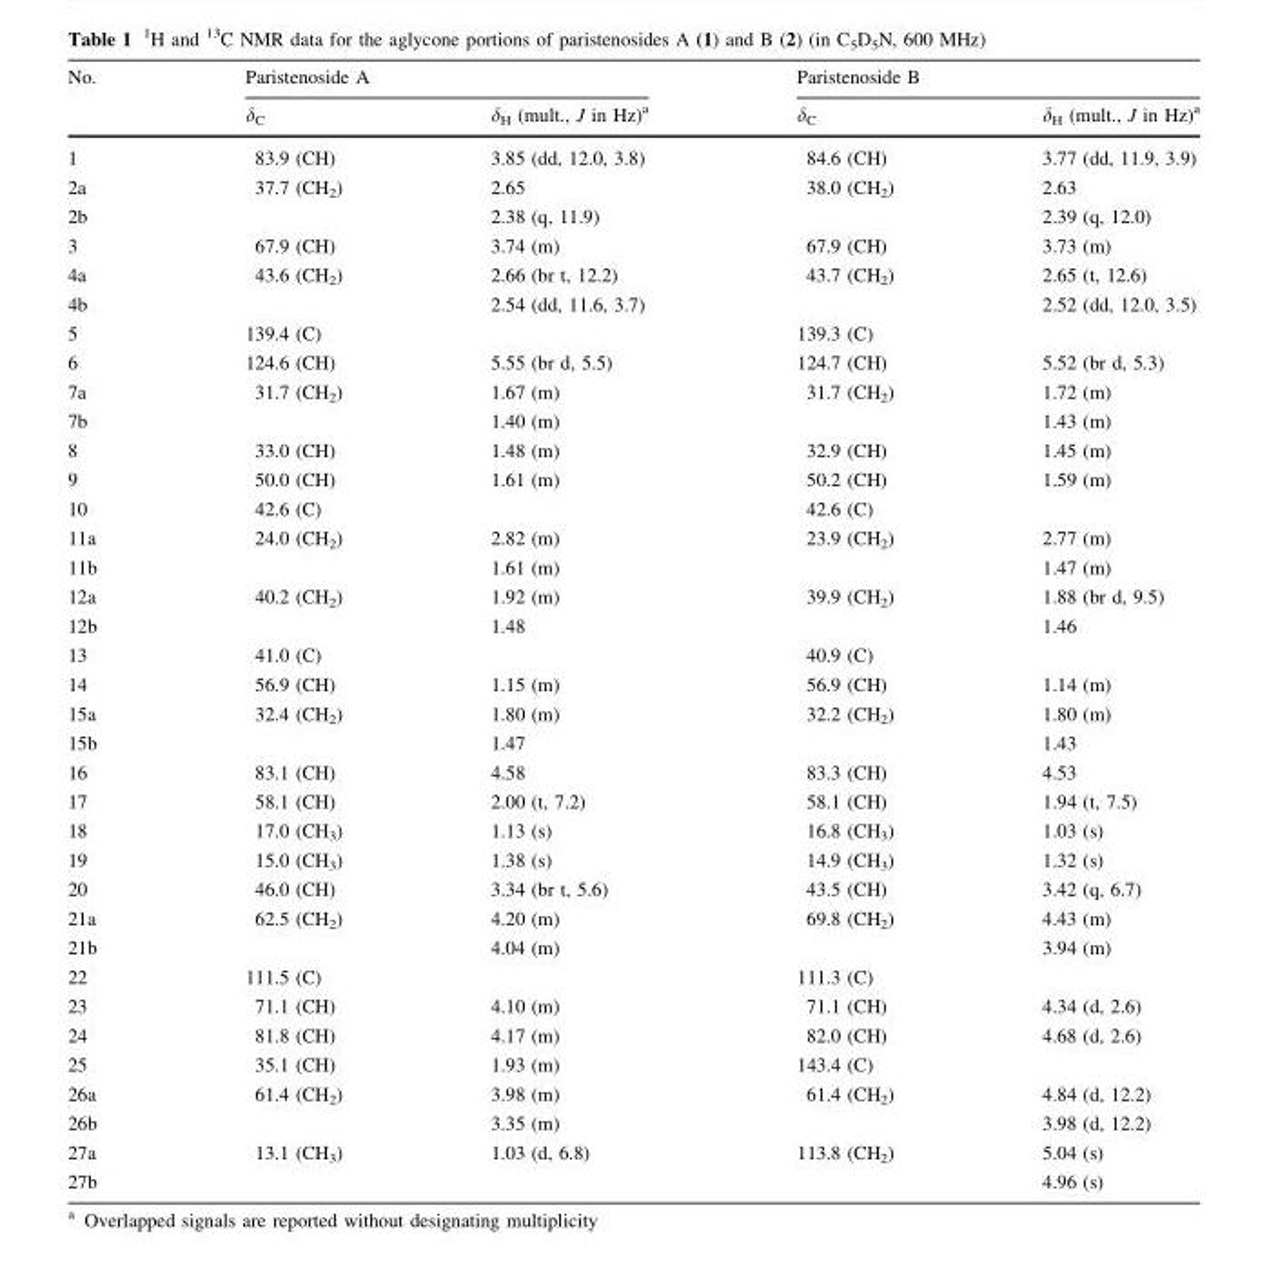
<table><thead><tr><td rowspan="2">No.</td><td colspan="2">Paristenoside A</td><td colspan="2">Paristenoside B</td></tr><tr><td>δ<sub>C</sub></td><td>δ<sub>H</sub> (mult., J in Hz)<sup>a</sup></td><td>δ<sub>C</sub></td><td>δ<sub>H</sub> (mult., J in Hz)<sup>a</sup></td></tr></thead><tbody><tr><td>1</td><td>83.9 (CH)</td><td>3.85 (dd, 12.0, 3.8)</td><td>84.6 (CH)</td><td>3.77 (dd, 11.9, 3.9)</td></tr><tr><td>2a</td><td>37.7 (CH<sub>2</sub>)</td><td>2.65</td><td>38.0 (CH<sub>2</sub>)</td><td>2.63</td></tr><tr><td>2b</td><td></td><td>2.38 (q, 11.9)</td><td></td><td>2.39 (q, 12.0)</td></tr><tr><td>3</td><td>67.9 (CH)</td><td>3.74 (m)</td><td>67.9 (CH)</td><td>3.73 (m)</td></tr><tr><td>4a</td><td>43.6 (CH<sub>2</sub>)</td><td>2.66 (br t, 12.2)</td><td>43.7 (CH<sub>2</sub>)</td><td>2.65 (t, 12.6)</td></tr><tr><td>4b</td><td></td><td>2.54 (dd, 11.6, 3.7)</td><td></td><td>2.52 (dd, 12.0, 3.5)</td></tr><tr><td>5</td><td>139.4 (C)</td><td></td><td>139.3 (C)</td><td></td></tr><tr><td>6</td><td>124.6 (CH)</td><td>5.55 (br d, 5.5)</td><td>124.7 (CH)</td><td>5.52 (br d, 5.3)</td></tr><tr><td>7a</td><td>31.7 (CH<sub>2</sub>)</td><td>1.67 (m)</td><td>31.7 (CH<sub>2</sub>)</td><td>1.72 (m)</td></tr><tr><td>7b</td><td></td><td>1.40 (m)</td><td></td><td>1.43 (m)</td></tr><tr><td>8</td><td>33.0 (CH)</td><td>1.48 (m)</td><td>32.9 (CH)</td><td>1.45 (m)</td></tr><tr><td>9</td><td>50.0 (CH)</td><td>1.61 (m)</td><td>50.2 (CH)</td><td>1.59 (m)</td></tr><tr><td>10</td><td>42.6 (C)</td><td></td><td>42.6 (C)</td><td></td></tr><tr><td>11a</td><td>24.0 (CH<sub>2</sub>)</td><td>2.82 (m)</td><td>23.9 (CH<sub>2</sub>)</td><td>2.77 (m)</td></tr><tr><td>11b</td><td></td><td>1.61 (m)</td><td></td><td>1.47 (m)</td></tr><tr><td>12a</td><td>40.2 (CH<sub>2</sub>)</td><td>1.92 (m)</td><td>39.9 (CH<sub>2</sub>)</td><td>1.88 (br d, 9.5)</td></tr><tr><td>12b</td><td></td><td>1.48</td><td></td><td>1.46</td></tr><tr><td>13</td><td>41.0 (C)</td><td></td><td>40.9 (C)</td><td></td></tr><tr><td>14</td><td>56.9 (CH)</td><td>1.15 (m)</td><td>56.9 (CH)</td><td>1.14 (m)</td></tr><tr><td>15a</td><td>32.4 (CH<sub>2</sub>)</td><td>1.80 (m)</td><td>32.2 (CH<sub>2</sub>)</td><td>1.80 (m)</td></tr><tr><td>15b</td><td></td><td>1.47</td><td></td><td>1.43</td></tr><tr><td>16</td><td>83.1 (CH)</td><td>4.58</td><td>83.3 (CH)</td><td>4.53</td></tr><tr><td>17</td><td>58.1 (CH)</td><td>2.00 (t, 7.2)</td><td>58.1 (CH)</td><td>1.94 (t, 7.5)</td></tr><tr><td>18</td><td>17.0 (CH<sub>3</sub>)</td><td>1.13 (s)</td><td>16.8 (CH<sub>3</sub>)</td><td>1.03 (s)</td></tr><tr><td>19</td><td>15.0 (CH<sub>3</sub>)</td><td>1.38 (s)</td><td>14.9 (CH<sub>3</sub>)</td><td>1.32 (s)</td></tr><tr><td>20</td><td>46.0 (CH)</td><td>3.34 (br t, 5.6)</td><td>43.5 (CH)</td><td>3.42 (q, 6.7)</td></tr><tr><td>21a</td><td>62.5 (CH<sub>2</sub>)</td><td>4.20 (m)</td><td>69.8 (CH<sub>2</sub>)</td><td>4.43 (m)</td></tr><tr><td>21b</td><td></td><td>4.04 (m)</td><td></td><td>3.94 (m)</td></tr><tr><td>22</td><td>111.5 (C)</td><td></td><td>111.3 (C)</td><td></td></tr><tr><td>23</td><td>71.1 (CH)</td><td>4.10 (m)</td><td>71.1 (CH)</td><td>4.34 (d, 2.6)</td></tr><tr><td>24</td><td>81.8 (CH)</td><td>4.17 (m)</td><td>82.0 (CH)</td><td>4.68 (d, 2.6)</td></tr><tr><td>25</td><td>35.1 (CH)</td><td>1.93 (m)</td><td>143.4 (C)</td><td></td></tr><tr><td>26a</td><td>61.4 (CH<sub>2</sub>)</td><td>3.98 (m)</td><td>61.4 (CH<sub>2</sub>)</td><td>4.84 (d, 12.2)</td></tr><tr><td>26b</td><td></td><td>3.35 (m)</td><td></td><td>3.98 (d, 12.2)</td></tr><tr><td>27a</td><td>13.1 (CH<sub>3</sub>)</td><td>1.03 (d, 6.8)</td><td>113.8 (CH<sub>2</sub>)</td><td>5.04 (s)</td></tr><tr><td>27b</td><td></td><td></td><td></td><td>4.96 (s)</td></tr></tbody></table>